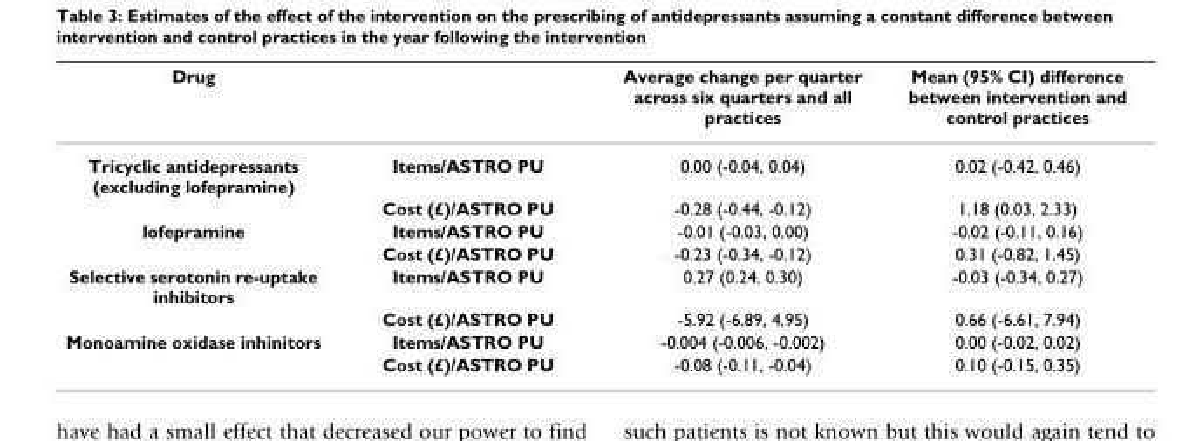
<table><thead><tr><td>Drug</td><td></td><td>Average change per quarter across six quarters and all practices</td><td>Mean (95% CI) difference between intervention and control practices</td></tr></thead><tbody><tr><td rowspan="2">Tricyclic antidepressants (excluding lofepramine)</td><td>Items/ASTRO PU</td><td>0.00 (-0.04, 0.04)</td><td>0.02 (-0.42, 0.46)</td></tr><tr><td>Cost (£)/ASTRO PU</td><td>-0.28 (-0.44, -0.12)</td><td>1.18 (0.03, 2.33)</td></tr><tr><td rowspan="2">lofepramine</td><td>Items/ASTRO PU</td><td>-0.01 (-0.03, 0.00)</td><td>-0.02 (-0.11, 0.16)</td></tr><tr><td>Cost (£)/ASTRO PU</td><td>-0.23 (-0.34, -0.12)</td><td>0.31 (-0.82, 1.45)</td></tr><tr><td rowspan="2">Selective serotonin re-uptake inhibitors</td><td>Items/ASTRO PU</td><td>0.27 (0.24, 0.30)</td><td>-0.03 (-0.34, 0.27)</td></tr><tr><td>Cost (£)/ASTRO PU</td><td>-5.92 (-6.89, 4.95)</td><td>0.66 (-6.61, 7.94)</td></tr><tr><td rowspan="2">Monoamine oxidase inhinitors</td><td>Items/ASTRO PU</td><td>-0.004 (-0.006, -0.002)</td><td>0.00 (-0.02, 0.02)</td></tr><tr><td>Cost (£)/ASTRO PU</td><td>-0.08 (-0.11, -0.04)</td><td>0.10 (-0.15, 0.35)</td></tr></tbody></table>